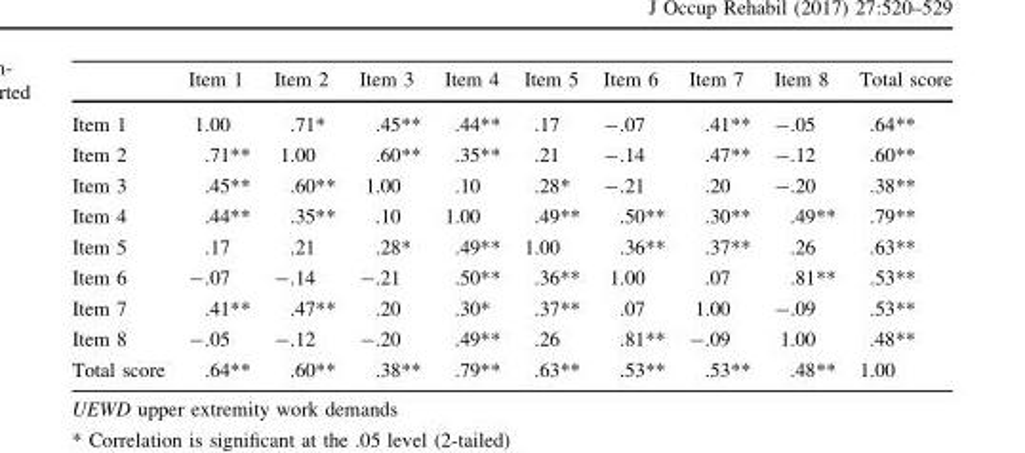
<table><thead><tr><td></td><td>Item 1</td><td>Item 2</td><td>Item 3</td><td>Item 4</td><td>Item 5</td><td>Item 6</td><td>Item 7</td><td>Item 8</td><td>Total score</td></tr></thead><tbody><tr><td>Item 1</td><td>1.00</td><td>.71*</td><td>.45**</td><td>.44**</td><td>.17</td><td>-.07</td><td>.41**</td><td>-.05</td><td>.64**</td></tr><tr><td>Item 2</td><td>.71**</td><td>1.00</td><td>.60**</td><td>.35**</td><td>.21</td><td>-.14</td><td>.47**</td><td>-.12</td><td>.60**</td></tr><tr><td>Item 3</td><td>.45**</td><td>.60**</td><td>1.00</td><td>.10</td><td>.28*</td><td>-.21</td><td>.20</td><td>-.20</td><td>.38**</td></tr><tr><td>Item 4</td><td>.44**</td><td>.35**</td><td>.10</td><td>1.00</td><td>.49**</td><td>.50**</td><td>.30**</td><td>.49**</td><td>.79**</td></tr><tr><td>Item 5</td><td>.17</td><td>.21</td><td>.28*</td><td>.49**</td><td>1.00</td><td>.36**</td><td>.37**</td><td>.26</td><td>.63**</td></tr><tr><td>Item 6</td><td>-.07</td><td>-.14</td><td>-.21</td><td>.50**</td><td>.36**</td><td>1.00</td><td>.07</td><td>.81**</td><td>.53**</td></tr><tr><td>Item 7</td><td>.41**</td><td>.47**</td><td>.20</td><td>.30*</td><td>.37**</td><td>.07</td><td>1.00</td><td>-.09</td><td>.53**</td></tr><tr><td>Item 8</td><td>-.05</td><td>-.12</td><td>-.20</td><td>.49**</td><td>.26</td><td>.81**</td><td>-.09</td><td>1.00</td><td>.48**</td></tr><tr><td>Total score</td><td>.64**</td><td>.60**</td><td>.38**</td><td>.79**</td><td>.63**</td><td>.53**</td><td>.53**</td><td>.48**</td><td>1.00</td></tr></tbody></table>